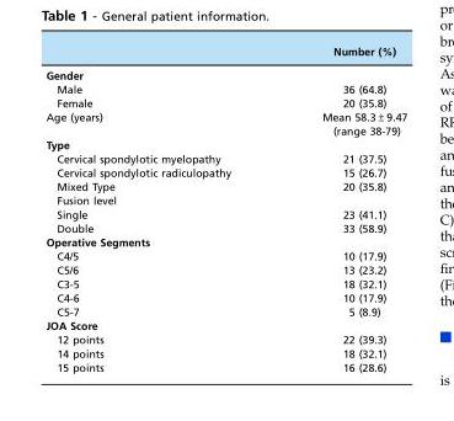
<table><thead><tr><td></td><td>Number (%)</td></tr></thead><tbody><tr><td colspan="2">Gender</td></tr><tr><td>Male</td><td>36 (64.8)</td></tr><tr><td>Female</td><td>20 (35.8)</td></tr><tr><td>Age (years)</td><td>Mean 58.3±9.47 (range 38-79)</td></tr><tr><td colspan="2">Type</td></tr><tr><td>Cervical spondylotic myelopathy</td><td>21 (37.5)</td></tr><tr><td>Cervical spondylotic radiculopathy</td><td>15 (26.7)</td></tr><tr><td>Mixed Type</td><td>20 (35.8)</td></tr><tr><td colspan="2">Fusion level</td></tr><tr><td>Single</td><td>23 (41.1)</td></tr><tr><td>Double</td><td>33 (58.9)</td></tr><tr><td colspan="2">Operative Segments</td></tr><tr><td>C4/5</td><td>10 (17.9)</td></tr><tr><td>C5/6</td><td>13 (23.2)</td></tr><tr><td>C3-5</td><td>18 (32.1)</td></tr><tr><td>C4-6</td><td>10 (17.9)</td></tr><tr><td>C5-7</td><td>5 (8.9)</td></tr><tr><td colspan="2">JOA Score</td></tr><tr><td>12 points</td><td>22 (39.3)</td></tr><tr><td>14 points</td><td>18 (32.1)</td></tr><tr><td>15 points</td><td>16 (28.6)</td></tr></tbody></table>